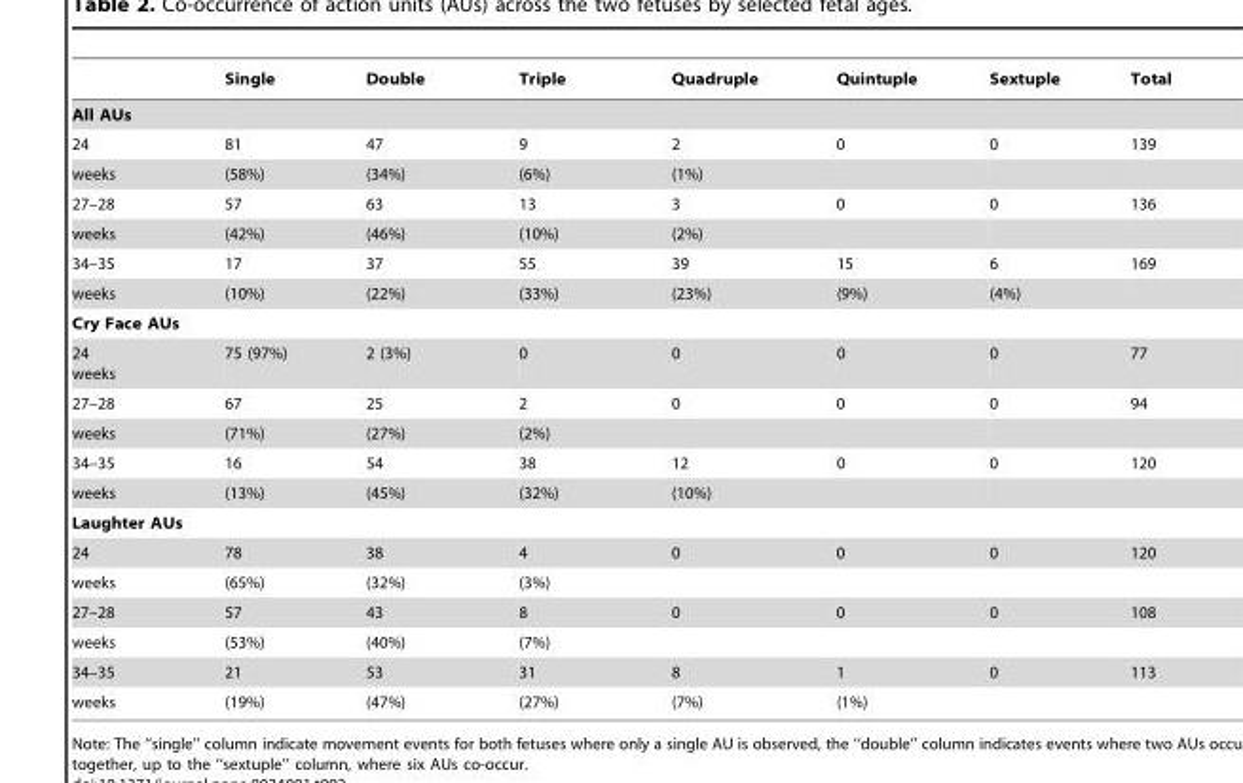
<table><thead><tr><td></td><td>Single</td><td>Double</td><td>Triple</td><td>Quadruple</td><td>Quintuple</td><td>Sextuple</td><td>Total</td></tr></thead><tbody><tr><td colspan="8">All AUs</td></tr><tr><td>24</td><td>81</td><td>47</td><td>9</td><td>2</td><td>0</td><td>0</td><td>139</td></tr><tr><td>weeks</td><td>(58%)</td><td>(34%)</td><td>(6%)</td><td>(1%)</td><td></td><td></td><td></td></tr><tr><td>27–28</td><td>57</td><td>63</td><td>13</td><td>3</td><td>0</td><td>0</td><td>136</td></tr><tr><td>weeks</td><td>(42%)</td><td>(46%)</td><td>(10%)</td><td>(2%)</td><td></td><td></td><td></td></tr><tr><td>34–35</td><td>17</td><td>37</td><td>55</td><td>39</td><td>15</td><td>6</td><td>169</td></tr><tr><td>weeks</td><td>(10%)</td><td>(22%)</td><td>(33%)</td><td>(23%)</td><td>(9%)</td><td>(4%)</td><td></td></tr><tr><td colspan="8">Cry Face AUs</td></tr><tr><td>24 weeks</td><td>75 (97%)</td><td>2 (3%)</td><td>0</td><td>0</td><td>0</td><td>0</td><td>77</td></tr><tr><td>27–28</td><td>67</td><td>25</td><td>2</td><td>0</td><td>0</td><td>0</td><td>94</td></tr><tr><td>weeks</td><td>(71%)</td><td>(27%)</td><td>(2%)</td><td></td><td></td><td></td><td></td></tr><tr><td>34–35</td><td>16</td><td>54</td><td>38</td><td>12</td><td>0</td><td>0</td><td>120</td></tr><tr><td>weeks</td><td>(13%)</td><td>(45%)</td><td>(32%)</td><td>(10%)</td><td></td><td></td><td></td></tr><tr><td colspan="8">Laughter AUs</td></tr><tr><td>24</td><td>78</td><td>38</td><td>4</td><td>0</td><td>0</td><td>0</td><td>120</td></tr><tr><td>weeks</td><td>(65%)</td><td>(32%)</td><td>(3%)</td><td></td><td></td><td></td><td></td></tr><tr><td>27–28</td><td>57</td><td>43</td><td>8</td><td>0</td><td>0</td><td>0</td><td>108</td></tr><tr><td>weeks</td><td>(53%)</td><td>(40%)</td><td>(7%)</td><td></td><td></td><td></td><td></td></tr><tr><td>34–35</td><td>21</td><td>53</td><td>31</td><td>8</td><td>1</td><td>0</td><td>113</td></tr><tr><td>weeks</td><td>(19%)</td><td>(47%)</td><td>(27%)</td><td>(7%)</td><td>(1%)</td><td></td><td></td></tr></tbody></table>